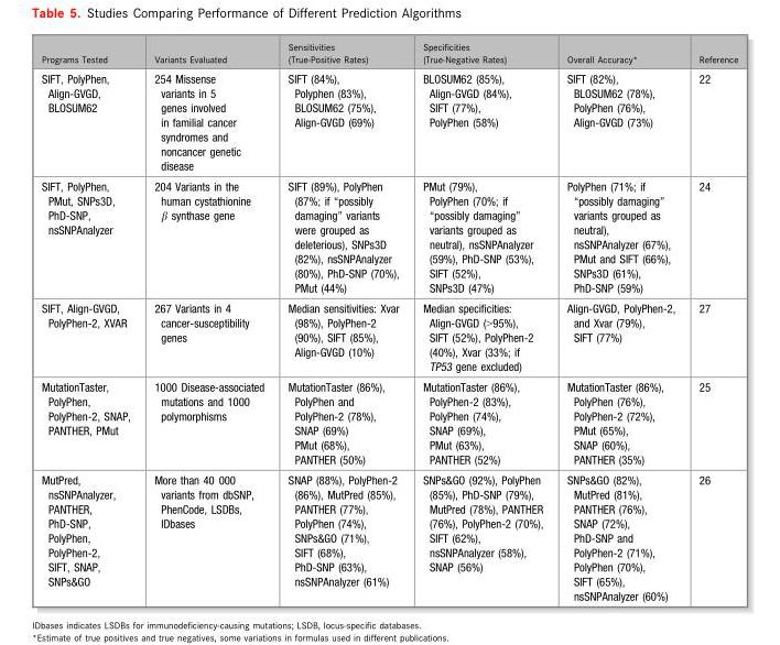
<table><thead><tr><td>Programs Tested</td><td>Variants Evaluated</td><td>Sensitivities (True-Positive Rates)</td><td>Specificities (True-Negative Rates)</td><td>Overall Accuracy*</td><td>Reference</td></tr></thead><tbody><tr><td>SIFT, PolyPhen, Align-GVGD, BLOSUM62</td><td>254 Missense variants in 5 genes involved in familial cancer syndromes and noncancer genetic disease</td><td>SIFT (84%), Polyphen (83%), BLOSUM62 (75%), Align-GVGD (69%)</td><td>BLOSUM62 (85%), Align-GVGD (84%), SIFT (77%), PolyPhen (58%)</td><td>SIFT (82%), BLOSUM62 (78%), PolyPhen (76%), Align-GVGD (73%)</td><td><sup>22</sup></td></tr><tr><td>SIFT, PolyPhen, PMut, SNPs3D, PhD-SNP, nsSNPAnalyzer</td><td>204 Variants in the human cystathionine β synthase gene</td><td>SIFT (89%), PolyPhen (87%; if “possibly damaging” variants were grouped as deleterious), SNPs3D (82%), nsSNPAnalyzer (80%), PhD-SNP (70%), PMut (44%)</td><td>PMut (79%), PolyPhen (70%; if “possibly damaging” variants grouped as neutral), nsSNPAnalyzer (59%), PhD-SNP (53%), SIFT (52%), SNPs3D (47%)</td><td>PolyPhen (71%; if “possibly damaging” variants grouped as neutral), nsSNPAnalyzer (67%), PMut and SIFT (66%), SNPs3D (61%), PhD-SNP (59%)</td><td><sup>24</sup></td></tr><tr><td>SIFT, Align-GVGD, PolyPhen-2, XVAR</td><td>267 Variants in 4 cancer-susceptibility genes</td><td>Median sensitivities: Xvar (98%), PolyPhen-2 (90%), SIFT (85%), Align-GVGD (10%)</td><td>Median specificities: Align-GVGD (&gt;95%), SIFT (52%), PolyPhen-2 (40%), Xvar (33%; if TP53 gene excluded)</td><td>Align-GVGD, PolyPhen-2, and Xvar (79%), SIFT (77%)</td><td><sup>27</sup></td></tr><tr><td>MutationTaster, PolyPhen, PolyPhen-2, SNAP, PANTHER, PMut</td><td>1000 Disease-associated mutations and 1000 polymorphisms</td><td>MutationTaster (86%), PolyPhen and PolyPhen-2 (78%), SNAP (69%) PMut (68%), PANTHER (50%)</td><td>MutationTaster (86%), PolyPhen-2 (83%), PolyPhen (74%), SNAP (69%), PMut (63%), PANTHER (52%)</td><td>MutationTaster (86%), PolyPhen (76%), PolyPhen-2 (72%), PMut (65%), SNAP (60%), PANTHER (35%)</td><td><sup>25</sup></td></tr><tr><td>MutPred, nsSNPAnalyzer, PANTHER, PhD-SNP, PolyPhen, PolyPhen-2, SIFT, SNAP, SNPs&amp;GO</td><td>More than 40 000 variants from dbSNP, PhenCode, LSDBs, IDbases</td><td>SNAP (88%), PolyPhen-2 (86%), MutPred (85%), PANTHER (77%), PolyPhen (74%), SNPs&amp;GO (71%), SIFT (68%), PhD-SNP (63%), nsSNPAnalyzer (61%)</td><td>SNPs&amp;GO (92%), PolyPhen (85%), PhD-SNP (79%), MutPred (78%), PANTHER (76%), PolyPhen-2 (70%), SIFT (62%), nsSNPAnalyzer (58%), SNAP (56%)</td><td>SNPs&amp;GO (82%), MutPred (81%), PANTHER (76%), SNAP (72%), PhD-SNP and PolyPhen-2 (71%), PolyPhen (70%), SIFT (65%), nsSNPAnalyzer (60%)</td><td><sup>26</sup></td></tr></tbody></table>